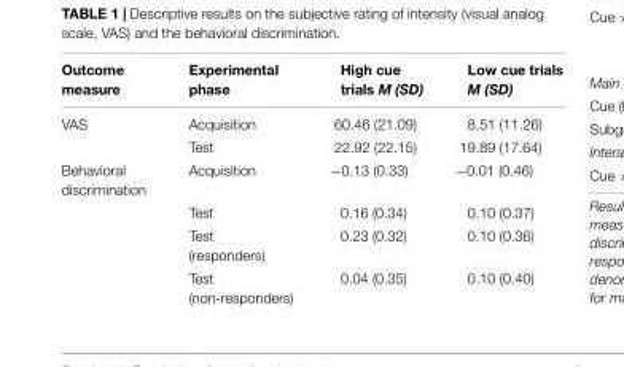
<table><thead><tr><td>Outcome measure</td><td>Experimental phase</td><td>High cue trials M (SD)</td><td>Low cue trials M (SD)</td></tr></thead><tbody><tr><td rowspan="2">VAS</td><td>Acquisition</td><td>60.46 (21.09)</td><td>8.51 (11.26)</td></tr><tr><td>Test</td><td>22.92 (22.15)</td><td>19.89 (17.64)</td></tr><tr><td rowspan="4">Behavioral discrimination</td><td>Acquisition</td><td>−0.13 (0.33)</td><td>−0.01 (0.46)</td></tr><tr><td>Test</td><td>0.16 (0.34)</td><td>0.10 (0.37)</td></tr><tr><td>Test (responders)</td><td>0.23 (0.32)</td><td>0.10 (0.36)</td></tr><tr><td>Test (non-responders)</td><td>0.04 (0.35)</td><td>0.10 (0.40)</td></tr></tbody></table>